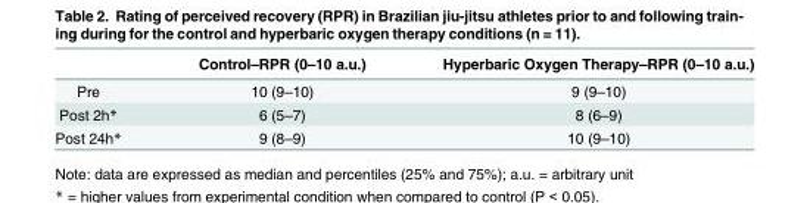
<table><thead><tr><td></td><td>Control–RPR (0–10 a.u.)</td><td>Hyperbaric Oxygen Therapy–RPR (0–10 a.u.)</td></tr></thead><tbody><tr><td>Pre</td><td>10 (9–10)</td><td>9 (9–10)</td></tr><tr><td>Post 2h*</td><td>6 (5–7)</td><td>8 (6–9)</td></tr><tr><td>Post 24h*</td><td>9 (8–9)</td><td>10 (9–10)</td></tr></tbody></table>